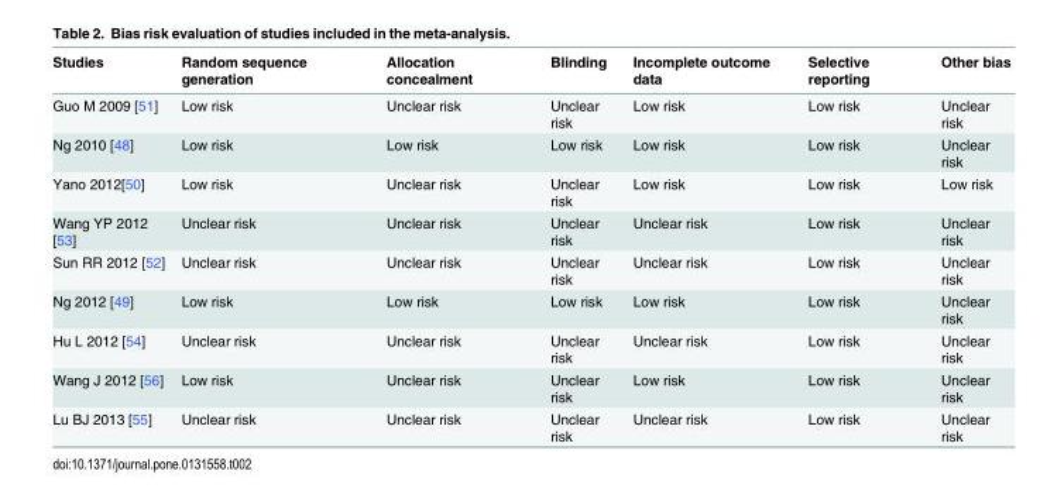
<table><thead><tr><td>Studies</td><td>Random sequence generation</td><td>Allocation concealment</td><td>Blinding</td><td>Incomplete outcome data</td><td>Selective reporting</td><td>Other bias</td></tr></thead><tbody><tr><td>Guo M 2009 [51]</td><td>Low risk</td><td>Unclear risk</td><td>Unclear risk</td><td>Low risk</td><td>Low risk</td><td>Unclear risk</td></tr><tr><td>Ng 2010 [48]</td><td>Low risk</td><td>Low risk</td><td>Low risk</td><td>Low risk</td><td>Low risk</td><td>Unclear risk</td></tr><tr><td>Yano 2012[50]</td><td>Low risk</td><td>Unclear risk</td><td>Unclear risk</td><td>Low risk</td><td>Low risk</td><td>Low risk</td></tr><tr><td>Wang YP 2012 [53]</td><td>Unclear risk</td><td>Unclear risk</td><td>Unclear risk</td><td>Unclear risk</td><td>Low risk</td><td>Unclear risk</td></tr><tr><td>Sun RR 2012 [52]</td><td>Unclear risk</td><td>Unclear risk</td><td>Unclear risk</td><td>Unclear risk</td><td>Low risk</td><td>Unclear risk</td></tr><tr><td>Ng 2012 [49]</td><td>Low risk</td><td>Low risk</td><td>Low risk</td><td>Low risk</td><td>Low risk</td><td>Unclear risk</td></tr><tr><td>Hu L 2012 [54]</td><td>Unclear risk</td><td>Unclear risk</td><td>Unclear risk</td><td>Unclear risk</td><td>Low risk</td><td>Unclear risk</td></tr><tr><td>Wang J 2012 [56]</td><td>Low risk</td><td>Unclear risk</td><td>Unclear risk</td><td>Low risk</td><td>Low risk</td><td>Unclear risk</td></tr><tr><td>Lu BJ 2013 [55]</td><td>Unclear risk</td><td>Unclear risk</td><td>Unclear risk</td><td>Unclear risk</td><td>Low risk</td><td>Unclear risk</td></tr></tbody></table>